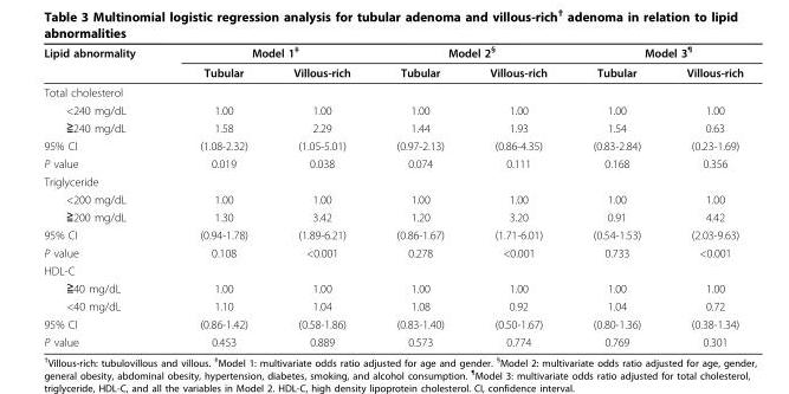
<table><thead><tr><td rowspan="2">Lipid abnormality</td><td colspan="2">Model 1<sup>‡</sup></td><td colspan="2">Model 2<sup>§</sup></td><td colspan="2">Model 3<sup>¶</sup></td></tr><tr><td>Tubular</td><td>Villous-rich</td><td>Tubular</td><td>Villous-rich</td><td>Tubular</td><td>Villous-rich</td></tr></thead><tbody><tr><td colspan="7">Total cholesterol</td></tr><tr><td>&lt;240 mg/dL</td><td>1.00</td><td>1.00</td><td>1.00</td><td>1.00</td><td>1.00</td><td>1.00</td></tr><tr><td>≧240 mg/dL</td><td>1.58</td><td>2.29</td><td>1.44</td><td>1.93</td><td>1.54</td><td>0.63</td></tr><tr><td>95% CI</td><td>(1.08-2.32)</td><td>(1.05-5.01)</td><td>(0.97-2.13)</td><td>(0.86-4.35)</td><td>(0.83-2.84)</td><td>(0.23-1.69)</td></tr><tr><td>P value</td><td>0.019</td><td>0.038</td><td>0.074</td><td>0.111</td><td>0.168</td><td>0.356</td></tr><tr><td colspan="7">Triglyceride</td></tr><tr><td>&lt;200 mg/dL</td><td>1.00</td><td>1.00</td><td>1.00</td><td>1.00</td><td>1.00</td><td>1.00</td></tr><tr><td>≧200 mg/dL</td><td>1.30</td><td>3.42</td><td>1.20</td><td>3.20</td><td>0.91</td><td>4.42</td></tr><tr><td>95% CI</td><td>(0.94-1.78)</td><td>(1.89-6.21)</td><td>(0.86-1.67)</td><td>(1.71-6.01)</td><td>(0.54-1.53)</td><td>(2.03-9.63)</td></tr><tr><td>P value</td><td>0.108</td><td>&lt;0.001</td><td>0.278</td><td>&lt;0.001</td><td>0.733</td><td>&lt;0.001</td></tr><tr><td colspan="7">HDL-C</td></tr><tr><td>≧40 mg/dL</td><td>1.00</td><td>1.00</td><td>1.00</td><td>1.00</td><td>1.00</td><td>1.00</td></tr><tr><td>&lt;40 mg/dL</td><td>1.10</td><td>1.04</td><td>1.08</td><td>0.92</td><td>1.04</td><td>0.72</td></tr><tr><td>95% CI</td><td>(0.86-1.42)</td><td>(0.58-1.86)</td><td>(0.83-1.40)</td><td>(0.50-1.67)</td><td>(0.80-1.36)</td><td>(0.38-1.34)</td></tr><tr><td>P value</td><td>0.453</td><td>0.889</td><td>0.573</td><td>0.774</td><td>0.769</td><td>0.301</td></tr></tbody></table>